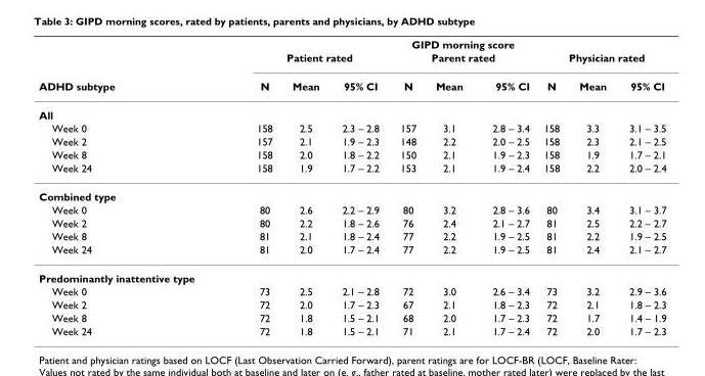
<table><thead><tr><td rowspan="3">ADHD subtype</td><td colspan="9">GIPD morning score</td></tr><tr><td colspan="3">Patient rated</td><td colspan="3">Parent rated</td><td colspan="3">Physician rated</td></tr><tr><td>N</td><td>Mean</td><td>95% CI</td><td>N</td><td>Mean</td><td>95% CI</td><td>N</td><td>Mean</td><td>95% CI</td></tr></thead><tbody><tr><td colspan="10">All</td></tr><tr><td>Week 0</td><td>158</td><td>2.5</td><td>2.3 – 2.8</td><td>157</td><td>3.1</td><td>2.8 – 3.4</td><td>158</td><td>3.3</td><td>3.1 – 3.5</td></tr><tr><td>Week 2</td><td>157</td><td>2.1</td><td>1.9 – 2.3</td><td>148</td><td>2.2</td><td>2.0 – 2.5</td><td>158</td><td>2.3</td><td>2.1 – 2.5</td></tr><tr><td>Week 8</td><td>158</td><td>2.0</td><td>1.8 – 2.2</td><td>150</td><td>2.1</td><td>1.9 – 2.3</td><td>158</td><td>1.9</td><td>1.7 – 2.1</td></tr><tr><td>Week 24</td><td>158</td><td>1.9</td><td>1.7 – 2.2</td><td>153</td><td>2.1</td><td>1.9 – 2.4</td><td>158</td><td>2.2</td><td>2.0 – 2.4</td></tr><tr><td colspan="10">Combined type</td></tr><tr><td>Week 0</td><td>80</td><td>2.6</td><td>2.2 – 2.9</td><td>80</td><td>3.2</td><td>2.8 – 3.6</td><td>80</td><td>3.4</td><td>3.1 – 3.7</td></tr><tr><td>Week 2</td><td>80</td><td>2.2</td><td>1.8 – 2.6</td><td>76</td><td>2.4</td><td>2.1 – 2.7</td><td>81</td><td>2.5</td><td>2.2 – 2.7</td></tr><tr><td>Week 8</td><td>81</td><td>2.1</td><td>1.8 – 2.4</td><td>77</td><td>2.2</td><td>1.9 – 2.5</td><td>81</td><td>2.2</td><td>1.9 – 2.5</td></tr><tr><td>Week 24</td><td>81</td><td>2.0</td><td>1.7 – 2.4</td><td>77</td><td>2.2</td><td>1.9 – 2.5</td><td>81</td><td>2.4</td><td>2.1 – 2.7</td></tr><tr><td colspan="10">Predominantly inattentive type</td></tr><tr><td>Week 0</td><td>73</td><td>2.5</td><td>2.1 – 2.8</td><td>72</td><td>3.0</td><td>2.6 – 3.4</td><td>73</td><td>3.2</td><td>2.9 – 3.6</td></tr><tr><td>Week 2</td><td>72</td><td>2.0</td><td>1.7 – 2.3</td><td>67</td><td>2.1</td><td>1.8 – 2.3</td><td>72</td><td>2.1</td><td>1.8 – 2.3</td></tr><tr><td>Week 8</td><td>72</td><td>1.8</td><td>1.5 – 2.1</td><td>68</td><td>2.0</td><td>1.7 – 2.3</td><td>72</td><td>1.7</td><td>1.4 – 1.9</td></tr><tr><td>Week 24</td><td>72</td><td>1.8</td><td>1.5 – 2.1</td><td>71</td><td>2.1</td><td>1.7 – 2.4</td><td>72</td><td>2.0</td><td>1.7 – 2.3</td></tr></tbody></table>